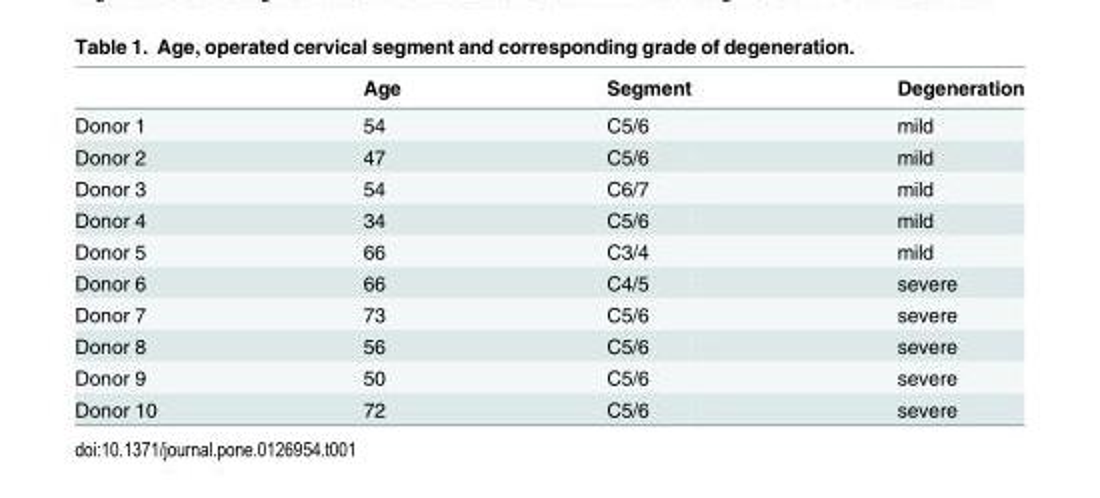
<table><thead><tr><td></td><td>Age</td><td>Segment</td><td>Degeneration</td></tr></thead><tbody><tr><td>Donor 1</td><td>54</td><td>C5/6</td><td>mild</td></tr><tr><td>Donor 2</td><td>47</td><td>C5/6</td><td>mild</td></tr><tr><td>Donor 3</td><td>54</td><td>C6/7</td><td>mild</td></tr><tr><td>Donor 4</td><td>34</td><td>C5/6</td><td>mild</td></tr><tr><td>Donor 5</td><td>66</td><td>C3/4</td><td>mild</td></tr><tr><td>Donor 6</td><td>66</td><td>C4/5</td><td>severe</td></tr><tr><td>Donor 7</td><td>73</td><td>C5/6</td><td>severe</td></tr><tr><td>Donor 8</td><td>56</td><td>C5/6</td><td>severe</td></tr><tr><td>Donor 9</td><td>50</td><td>C5/6</td><td>severe</td></tr><tr><td>Donor 10</td><td>72</td><td>C5/6</td><td>severe</td></tr></tbody></table>